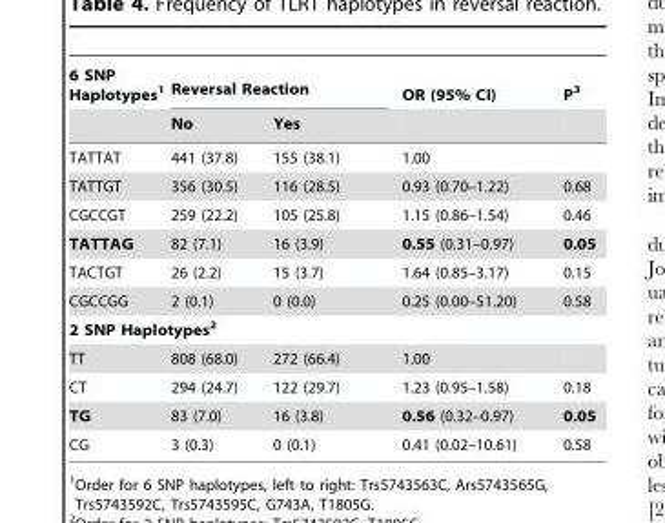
<table><thead><tr><td rowspan="2">6 SNP Haplotypes<sup>1</sup></td><td colspan="2">Reversal Reaction</td><td rowspan="2">OR (95% CI)</td><td rowspan="2">P<sup>3</sup></td></tr><tr><td>No</td><td>Yes</td></tr></thead><tbody><tr><td>TATTAT</td><td>441 (37.8)</td><td>155 (38.1)</td><td>1.00</td><td></td></tr><tr><td>TATTGT</td><td>356 (30.5)</td><td>116 (28.5)</td><td>0.93 (0.70–1.22)</td><td>0.68</td></tr><tr><td>CGCCGT</td><td>259 (22.2)</td><td>105 (25.8)</td><td>1.15 (0.86–1.54)</td><td>0.46</td></tr><tr><td>TATTAG</td><td>82 (7.1)</td><td>16 (3.9)</td><td>0.55 (0.31–0.97)</td><td>0.05</td></tr><tr><td>TACTGT</td><td>26 (2.2)</td><td>15 (3.7)</td><td>1.64 (0.85–3.17)</td><td>0.15</td></tr><tr><td>CGCCGG</td><td>2 (0.1)</td><td>0 (0.0)</td><td>0.25 (0.00–51.20)</td><td>0.58</td></tr><tr><td colspan="5">2 SNP Haplotypes2</td></tr><tr><td>TT</td><td>808 (68.0)</td><td>272 (66.4)</td><td>1.00</td><td></td></tr><tr><td>CT</td><td>294 (24.7)</td><td>122 (29.7)</td><td>1.23 (0.95–1.58)</td><td>0.18</td></tr><tr><td>TG</td><td>83 (7.0)</td><td>16 (3.8)</td><td>0.56 (0.32–0.97)</td><td>0.05</td></tr><tr><td>CG</td><td>3 (0.3)</td><td>0 (0.1)</td><td>0.41 (0.02–10.61)</td><td>0.58</td></tr></tbody></table>